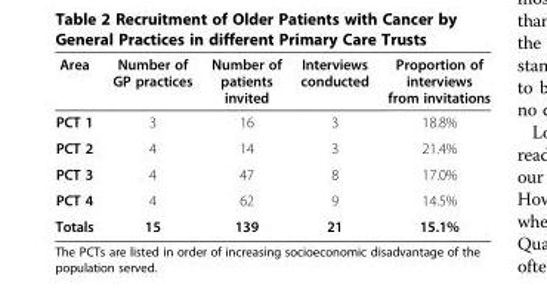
<table><thead><tr><td>Area</td><td>Number of GP practices</td><td>Number of patients invited</td><td>Interviews conducted</td><td>Proportion of interviews from invitations</td></tr></thead><tbody><tr><td>PCT 1</td><td>3</td><td>16</td><td>3</td><td>18.8%</td></tr><tr><td>PCT 2</td><td>4</td><td>14</td><td>3</td><td>21.4%</td></tr><tr><td>PCT 3</td><td>4</td><td>47</td><td>8</td><td>17.0%</td></tr><tr><td>PCT 4</td><td>4</td><td>62</td><td>9</td><td>14.5%</td></tr><tr><td>Totals</td><td>15</td><td>139</td><td>21</td><td>15.1%</td></tr></tbody></table>